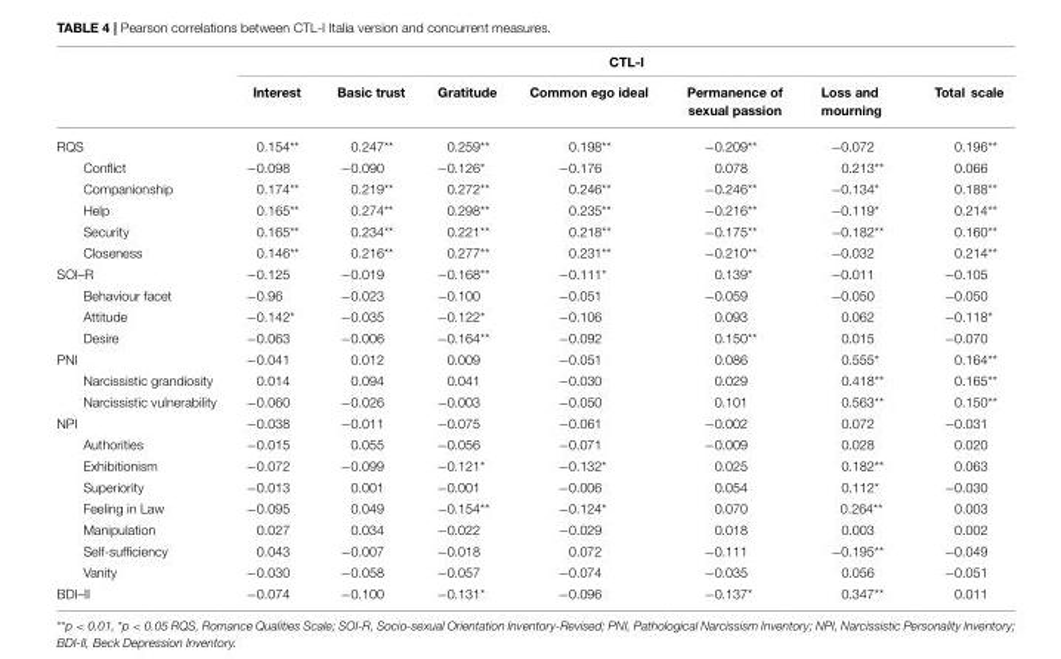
<table><thead><tr><td rowspan="2"></td><td colspan="7">CTL-I</td></tr><tr><td>Interest</td><td>Basic trust</td><td>Gratitude</td><td>Common ego ideal</td><td>Permanence of sexual passion</td><td>Loss and mourning</td><td>Total scale</td></tr></thead><tbody><tr><td>RQS</td><td>0.154**</td><td>0.247**</td><td>0.259**</td><td>0.198**</td><td>−0.209**</td><td>−0.072</td><td>0.196**</td></tr><tr><td>Conflict</td><td>−0.098</td><td>−0.090</td><td>−0.126*</td><td>−0.176</td><td>0.078</td><td>0.213**</td><td>0.066</td></tr><tr><td>Companionship</td><td>0.174**</td><td>0.219**</td><td>0.272**</td><td>0.246**</td><td>−0.246**</td><td>−0.134*</td><td>0.188**</td></tr><tr><td>Help</td><td>0.165**</td><td>0.274**</td><td>0.298**</td><td>0.235**</td><td>−0.216**</td><td>−0.119*</td><td>0.214**</td></tr><tr><td>Security</td><td>0.165**</td><td>0.234**</td><td>0.221**</td><td>0.218**</td><td>−0.175**</td><td>−0.182**</td><td>0.160**</td></tr><tr><td>Closeness</td><td>0.146**</td><td>0.216**</td><td>0.277**</td><td>0.231**</td><td>−0.210**</td><td>−0.032</td><td>0.214**</td></tr><tr><td>SOI–R</td><td>−0.125</td><td>−0.019</td><td>−0.168**</td><td>−0.111*</td><td>0.139*</td><td>−0.011</td><td>−0.105</td></tr><tr><td>Behaviour facet</td><td>−0.96</td><td>−0.023</td><td>−0.100</td><td>−0.051</td><td>−0.059</td><td>−0.050</td><td>−0.050</td></tr><tr><td>Attitude</td><td>−0.142*</td><td>−0.035</td><td>−0.122*</td><td>−0.106</td><td>0.093</td><td>0.062</td><td>−0.118*</td></tr><tr><td>Desire</td><td>−0.063</td><td>−0.006</td><td>−0.164**</td><td>−0.092</td><td>0.150**</td><td>0.015</td><td>−0.070</td></tr><tr><td>PNI</td><td>−0.041</td><td>0.012</td><td>0.009</td><td>−0.051</td><td>0.086</td><td>0.555*</td><td>0.164**</td></tr><tr><td>Narcissistic grandiosity</td><td>0.014</td><td>0.094</td><td>0.041</td><td>−0.030</td><td>0.029</td><td>0.418**</td><td>0.165**</td></tr><tr><td>Narcissistic vulnerability</td><td>−0.060</td><td>−0.026</td><td>−0.003</td><td>−0.050</td><td>0.101</td><td>0.563**</td><td>0.150**</td></tr><tr><td>NPI</td><td>−0.038</td><td>−0.011</td><td>−0.075</td><td>−0.061</td><td>−0.002</td><td>0.072</td><td>−0.031</td></tr><tr><td>Authorities</td><td>−0.015</td><td>0.055</td><td>−0.056</td><td>−0.071</td><td>−0.009</td><td>0.028</td><td>0.020</td></tr><tr><td>Exhibitionism</td><td>−0.072</td><td>−0.099</td><td>−0.121*</td><td>−0.132*</td><td>0.025</td><td>0.182**</td><td>0.063</td></tr><tr><td>Superiority</td><td>−0.013</td><td>0.001</td><td>−0.001</td><td>−0.006</td><td>0.054</td><td>0.112*</td><td>−0.030</td></tr><tr><td>Feeling in Law</td><td>−0.095</td><td>0.049</td><td>−0.154**</td><td>−0.124*</td><td>0.070</td><td>0.264**</td><td>0.003</td></tr><tr><td>Manipulation</td><td>0.027</td><td>0.034</td><td>−0.022</td><td>−0.029</td><td>0.018</td><td>0.003</td><td>0.002</td></tr><tr><td>Self-sufficiency</td><td>0.043</td><td>−0.007</td><td>−0.018</td><td>0.072</td><td>−0.111</td><td>−0.195**</td><td>−0.049</td></tr><tr><td>Vanity</td><td>−0.030</td><td>−0.058</td><td>−0.057</td><td>−0.074</td><td>−0.035</td><td>0.056</td><td>−0.051</td></tr><tr><td>BDI–II</td><td>−0.074</td><td>−0.100</td><td>−0.131*</td><td>−0.096</td><td>−0.137*</td><td>0.347**</td><td>0.011</td></tr></tbody></table>